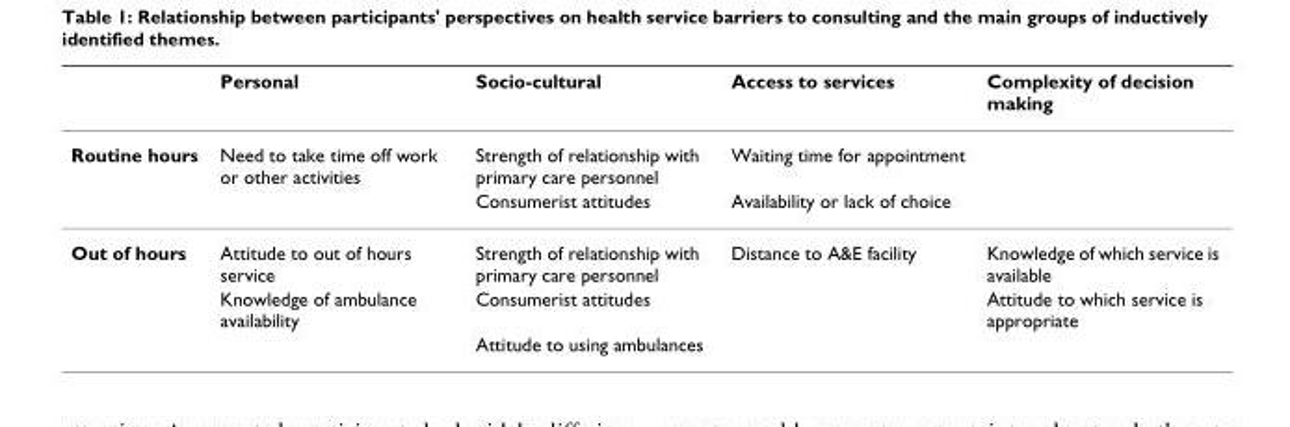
<table><thead><tr><td></td><td>Personal</td><td>Socio-cultural</td><td>Access to services</td><td>Complexity of decision making</td></tr></thead><tbody><tr><td rowspan="2">Routine hours</td><td>Need to take time off work or other activities</td><td>Strength of relationship with primary care personnel</td><td>Waiting time for appointment</td><td></td></tr><tr><td></td><td>Consumerist attitudes</td><td>Availability or lack of choice</td><td></td></tr><tr><td rowspan="3">Out of hours</td><td>Attitude to out of hours service</td><td>Strength of relationship with primary care personnel</td><td>Distance to A&amp;E facility</td><td>Knowledge of which service is available</td></tr><tr><td>Knowledge of ambulance availability</td><td>Consumerist attitudes</td><td></td><td>Attitude to which service is appropriate</td></tr><tr><td></td><td>Attitude to using ambulances</td><td></td><td></td></tr></tbody></table>